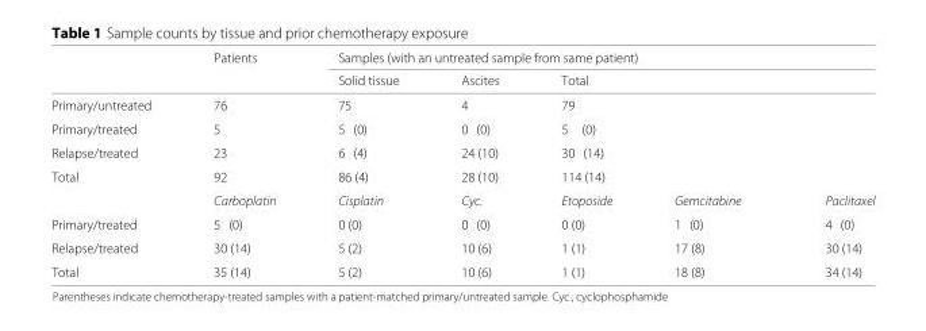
<table><thead><tr><td rowspan="2"></td><td rowspan="2">Patients</td><td colspan="5">Samples (with an untreated sample from same patient)</td></tr><tr><td>Solid tissue</td><td>Ascites</td><td>Total</td><td></td><td></td></tr></thead><tbody><tr><td>Primary/untreated</td><td>76</td><td>75</td><td>4</td><td>79</td><td colspan="2"></td></tr><tr><td>Primary/treated</td><td>5</td><td>5 (0)</td><td>0 (0)</td><td>5 (0)</td><td colspan="2"></td></tr><tr><td>Relapse/treated</td><td>23</td><td>6 (4)</td><td>24 (10)</td><td>30 (14)</td><td colspan="2"></td></tr><tr><td rowspan="2">Total</td><td>92</td><td>86 (4)</td><td>28 (10)</td><td>114 (14)</td><td colspan="2"></td></tr><tr><td>Carboplatin</td><td>Cisplatin</td><td>Cyc.</td><td>Etoposide</td><td>Gemcitabine</td><td>Paclitaxel</td></tr><tr><td>Primary/treated</td><td>5 (0)</td><td>0 (0)</td><td>0 (0)</td><td>0 (0)</td><td>1 (0)</td><td>4 (0)</td></tr><tr><td>Relapse/treated</td><td>30 (14)</td><td>5 (2)</td><td>10 (6)</td><td>1 (1)</td><td>17 (8)</td><td>30 (14)</td></tr><tr><td>Total</td><td>35 (14)</td><td>5 (2)</td><td>10 (6)</td><td>1 (1)</td><td>18 (8)</td><td>34 (14)</td></tr></tbody></table>